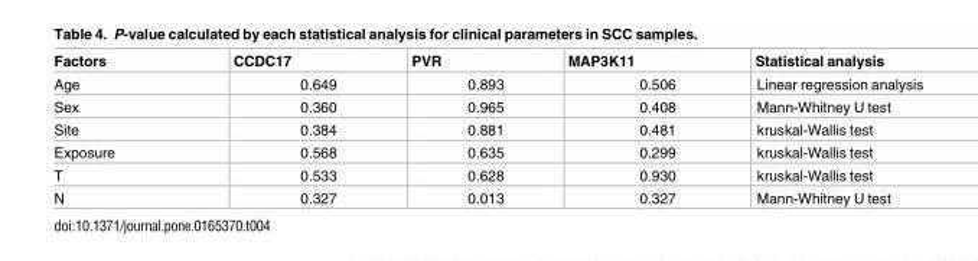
<table><thead><tr><td>Factors</td><td>CCDC17</td><td>PVR</td><td>MAP3K11</td><td>Statistical analysis</td></tr></thead><tbody><tr><td>Age</td><td>0.649</td><td>0.893</td><td>0.506</td><td>Linear regression analysis</td></tr><tr><td>Sex</td><td>0.360</td><td>0.965</td><td>0.408</td><td>Mann-Whitney U test</td></tr><tr><td>Site</td><td>0.384</td><td>0.881</td><td>0.481</td><td>kruskal-Wallis test</td></tr><tr><td>Exposure</td><td>0.568</td><td>0.635</td><td>0.299</td><td>kruskal-Wallis test</td></tr><tr><td>T</td><td>0.533</td><td>0.628</td><td>0.930</td><td>kruskal-Wallis test</td></tr><tr><td>N</td><td>0.327</td><td>0.013</td><td>0.327</td><td>Mann-Whitney U test</td></tr></tbody></table>